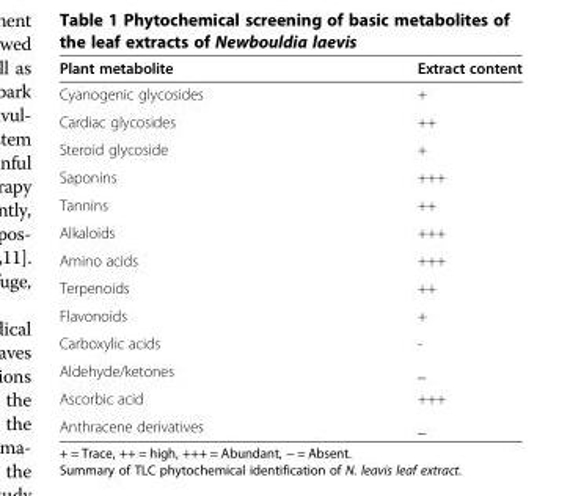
<table><thead><tr><td>Plant metabolite</td><td>Extract content</td></tr></thead><tbody><tr><td>Cyanogenic glycosides</td><td>+</td></tr><tr><td>Cardiac glycosides</td><td>++</td></tr><tr><td>Steroid glycoside</td><td>+</td></tr><tr><td>Saponins</td><td>+++</td></tr><tr><td>Tannins</td><td>++</td></tr><tr><td>Alkaloids</td><td>+++</td></tr><tr><td>Amino acids</td><td>+++</td></tr><tr><td>Terpenoids</td><td>++</td></tr><tr><td>Flavonoids</td><td>+</td></tr><tr><td>Carboxylic acids</td><td>-</td></tr><tr><td>Aldehyde/ketones</td><td>_</td></tr><tr><td>Ascorbic acid</td><td>+++</td></tr><tr><td>Anthracene derivatives</td><td>_</td></tr></tbody></table>